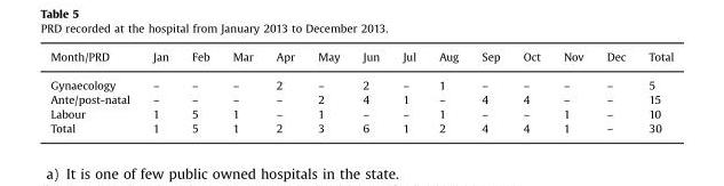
<table><thead><tr><td>Month/PRD</td><td>Jan</td><td>Feb</td><td>Mar</td><td>Apr</td><td>May</td><td>Jun</td><td>Jul</td><td>Aug</td><td>Sep</td><td>Oct</td><td>Nov</td><td>Dec</td><td>Total</td></tr></thead><tbody><tr><td>Gynaecology</td><td>–</td><td>–</td><td>–</td><td>2</td><td>–</td><td>2</td><td>–</td><td>1</td><td>–</td><td>–</td><td>–</td><td>–</td><td>5</td></tr><tr><td>Ante/post-natal</td><td>–</td><td>–</td><td>–</td><td>–</td><td>2</td><td>4</td><td>1</td><td>–</td><td>4</td><td>4</td><td>–</td><td>–</td><td>15</td></tr><tr><td>Labour</td><td>1</td><td>5</td><td>1</td><td>–</td><td>1</td><td>–</td><td>–</td><td>1</td><td>–</td><td>–</td><td>1</td><td>–</td><td>10</td></tr><tr><td>Total</td><td>1</td><td>5</td><td>1</td><td>2</td><td>3</td><td>6</td><td>1</td><td>2</td><td>4</td><td>4</td><td>1</td><td>–</td><td>30</td></tr></tbody></table>